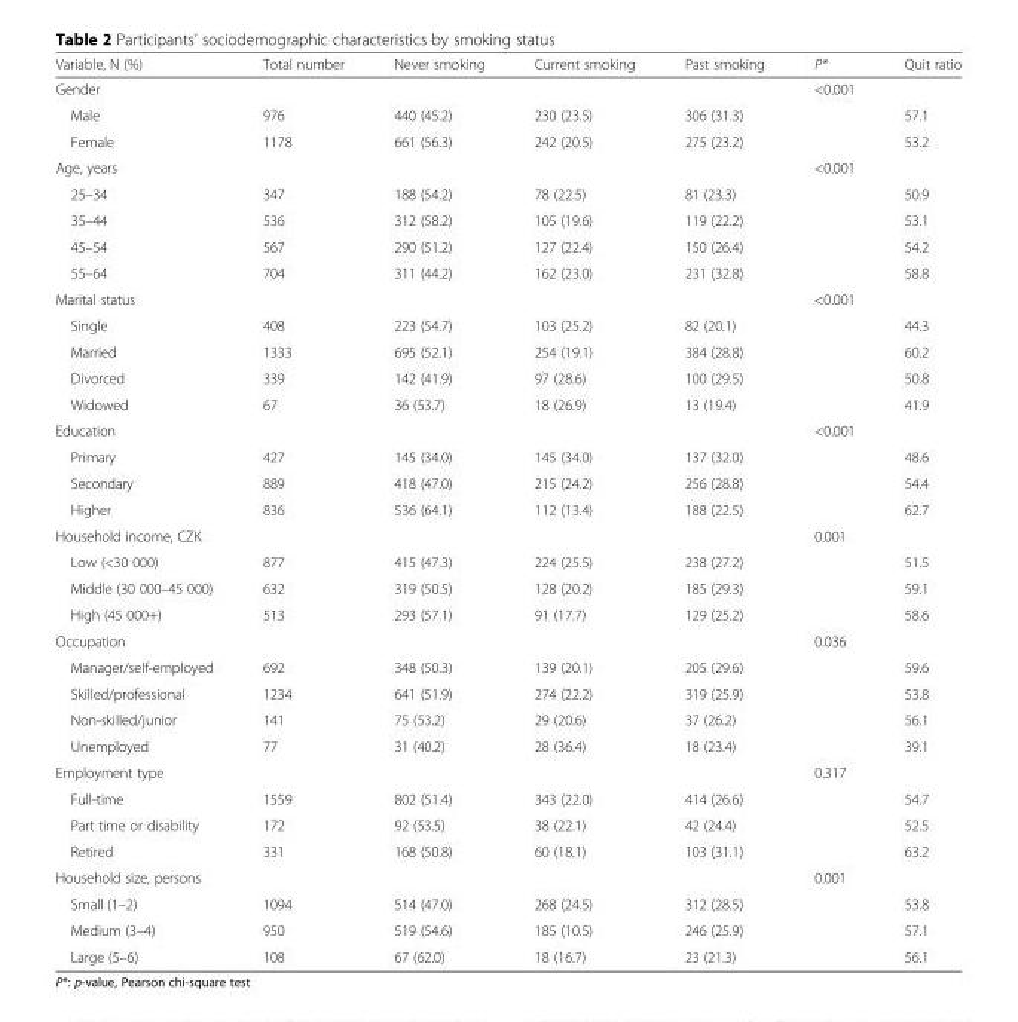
<table><thead><tr><td>Variable, N (%)</td><td>Total number</td><td>Never smoking</td><td>Current smoking</td><td>Past smoking</td><td>P*</td><td>Quit ratio</td></tr></thead><tbody><tr><td>Gender</td><td></td><td></td><td></td><td></td><td>&lt;0.001</td><td></td></tr><tr><td>Male</td><td>976</td><td>440 (45.2)</td><td>230 (23.5)</td><td>306 (31.3)</td><td></td><td>57.1</td></tr><tr><td>Female</td><td>1178</td><td>661 (56.3)</td><td>242 (20.5)</td><td>275 (23.2)</td><td></td><td>53.2</td></tr><tr><td>Age, years</td><td></td><td></td><td></td><td></td><td>&lt;0.001</td><td></td></tr><tr><td>25–34</td><td>347</td><td>188 (54.2)</td><td>78 (22.5)</td><td>81 (23.3)</td><td></td><td>50.9</td></tr><tr><td>35–44</td><td>536</td><td>312 (58.2)</td><td>105 (19.6)</td><td>119 (22.2)</td><td></td><td>53.1</td></tr><tr><td>45–54</td><td>567</td><td>290 (51.2)</td><td>127 (22.4)</td><td>150 (26.4)</td><td></td><td>54.2</td></tr><tr><td>55–64</td><td>704</td><td>311 (44.2)</td><td>162 (23.0)</td><td>231 (32.8)</td><td></td><td>58.8</td></tr><tr><td>Marital status</td><td></td><td></td><td></td><td></td><td>&lt;0.001</td><td></td></tr><tr><td>Single</td><td>408</td><td>223 (54.7)</td><td>103 (25.2)</td><td>82 (20.1)</td><td></td><td>44.3</td></tr><tr><td>Married</td><td>1333</td><td>695 (52.1)</td><td>254 (19.1)</td><td>384 (28.8)</td><td></td><td>60.2</td></tr><tr><td>Divorced</td><td>339</td><td>142 (41.9)</td><td>97 (28.6)</td><td>100 (29.5)</td><td></td><td>50.8</td></tr><tr><td>Widowed</td><td>67</td><td>36 (53.7)</td><td>18 (26.9)</td><td>13 (19.4)</td><td></td><td>41.9</td></tr><tr><td>Education</td><td></td><td></td><td></td><td></td><td>&lt;0.001</td><td></td></tr><tr><td>Primary</td><td>427</td><td>145 (34.0)</td><td>145 (34.0)</td><td>137 (32.0)</td><td></td><td>48.6</td></tr><tr><td>Secondary</td><td>889</td><td>418 (47.0)</td><td>215 (24.2)</td><td>256 (28.8)</td><td></td><td>54.4</td></tr><tr><td>Higher</td><td>836</td><td>536 (64.1)</td><td>112 (13.4)</td><td>188 (22.5)</td><td></td><td>62.7</td></tr><tr><td>Household income, CZK</td><td></td><td></td><td></td><td></td><td>0.001</td><td></td></tr><tr><td>Low (&lt;30 000)</td><td>877</td><td>415 (47.3)</td><td>224 (25.5)</td><td>238 (27.2)</td><td></td><td>51.5</td></tr><tr><td>Middle (30 000–45 000)</td><td>632</td><td>319 (50.5)</td><td>128 (20.2)</td><td>185 (29.3)</td><td></td><td>59.1</td></tr><tr><td>High (45 000+)</td><td>513</td><td>293 (57.1)</td><td>91 (17.7)</td><td>129 (25.2)</td><td></td><td>58.6</td></tr><tr><td>Occupation</td><td></td><td></td><td></td><td></td><td>0.036</td><td></td></tr><tr><td>Manager/self-employed</td><td>692</td><td>348 (50.3)</td><td>139 (20.1)</td><td>205 (29.6)</td><td></td><td>59.6</td></tr><tr><td>Skilled/professional</td><td>1234</td><td>641 (51.9)</td><td>274 (22.2)</td><td>319 (25.9)</td><td></td><td>53.8</td></tr><tr><td>Non-skilled/junior</td><td>141</td><td>75 (53.2)</td><td>29 (20.6)</td><td>37 (26.2)</td><td></td><td>56.1</td></tr><tr><td>Unemployed</td><td>77</td><td>31 (40.2)</td><td>28 (36.4)</td><td>18 (23.4)</td><td></td><td>39.1</td></tr><tr><td>Employment type</td><td></td><td></td><td></td><td></td><td>0.317</td><td></td></tr><tr><td>Full-time</td><td>1559</td><td>802 (51.4)</td><td>343 (22.0)</td><td>414 (26.6)</td><td></td><td>54.7</td></tr><tr><td>Part time or disability</td><td>172</td><td>92 (53.5)</td><td>38 (22.1)</td><td>42 (24.4)</td><td></td><td>52.5</td></tr><tr><td>Retired</td><td>331</td><td>168 (50.8)</td><td>60 (18.1)</td><td>103 (31.1)</td><td></td><td>63.2</td></tr><tr><td>Household size, persons</td><td></td><td></td><td></td><td></td><td>0.001</td><td></td></tr><tr><td>Small (1–2)</td><td>1094</td><td>514 (47.0)</td><td>268 (24.5)</td><td>312 (28.5)</td><td></td><td>53.8</td></tr><tr><td>Medium (3–4)</td><td>950</td><td>519 (54.6)</td><td>185 (10.5)</td><td>246 (25.9)</td><td></td><td>57.1</td></tr><tr><td>Large (5–6)</td><td>108</td><td>67 (62.0)</td><td>18 (16.7)</td><td>23 (21.3)</td><td></td><td>56.1</td></tr></tbody></table>